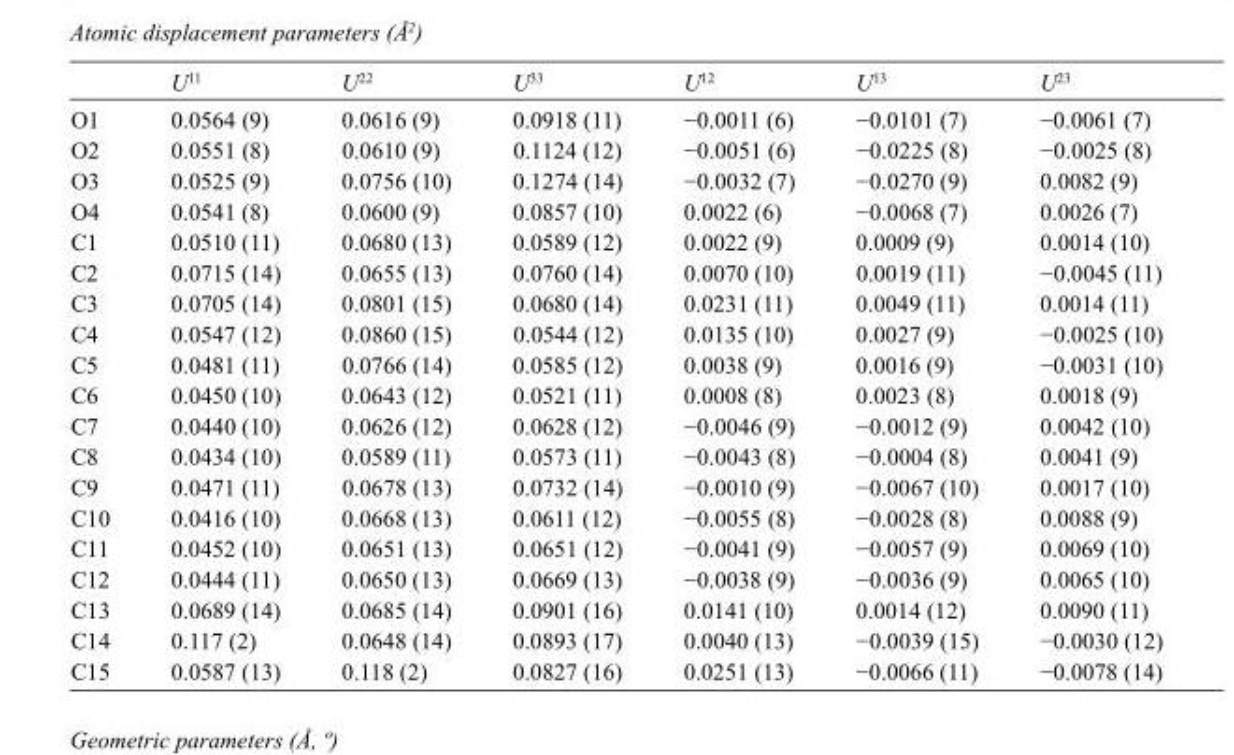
<table><thead><tr><td></td><td>U<sup>11</sup></td><td>U<sup>22</sup></td><td>U<sup>33</sup></td><td>U<sup>12</sup></td><td>U<sup>13</sup></td><td>U<sup>23</sup></td></tr></thead><tbody><tr><td>O1</td><td>0.0564 (9)</td><td>0.0616 (9)</td><td>0.0918 (11)</td><td>−0.0011 (6)</td><td>−0.0101 (7)</td><td>−0.0061 (7)</td></tr><tr><td>O2</td><td>0.0551 (8)</td><td>0.0610 (9)</td><td>0.1124 (12)</td><td>−0.0051 (6)</td><td>−0.0225 (8)</td><td>−0.0025 (8)</td></tr><tr><td>O3</td><td>0.0525 (9)</td><td>0.0756 (10)</td><td>0.1274 (14)</td><td>−0.0032 (7)</td><td>−0.0270 (9)</td><td>0.0082 (9)</td></tr><tr><td>O4</td><td>0.0541 (8)</td><td>0.0600 (9)</td><td>0.0857 (10)</td><td>0.0022 (6)</td><td>−0.0068 (7)</td><td>0.0026 (7)</td></tr><tr><td>C1</td><td>0.0510 (11)</td><td>0.0680 (13)</td><td>0.0589 (12)</td><td>0.0022 (9)</td><td>0.0009 (9)</td><td>0.0014 (10)</td></tr><tr><td>C2</td><td>0.0715 (14)</td><td>0.0655 (13)</td><td>0.0760 (14)</td><td>0.0070 (10)</td><td>0.0019 (11)</td><td>−0.0045 (11)</td></tr><tr><td>C3</td><td>0.0705 (14)</td><td>0.0801 (15)</td><td>0.0680 (14)</td><td>0.0231 (11)</td><td>0.0049 (11)</td><td>0.0014 (11)</td></tr><tr><td>C4</td><td>0.0547 (12)</td><td>0.0860 (15)</td><td>0.0544 (12)</td><td>0.0135 (10)</td><td>0.0027 (9)</td><td>−0.0025 (10)</td></tr><tr><td>C5</td><td>0.0481 (11)</td><td>0.0766 (14)</td><td>0.0585 (12)</td><td>0.0038 (9)</td><td>0.0016 (9)</td><td>−0.0031 (10)</td></tr><tr><td>C6</td><td>0.0450 (10)</td><td>0.0643 (12)</td><td>0.0521 (11)</td><td>0.0008 (8)</td><td>0.0023 (8)</td><td>0.0018 (9)</td></tr><tr><td>C7</td><td>0.0440 (10)</td><td>0.0626 (12)</td><td>0.0628 (12)</td><td>−0.0046 (9)</td><td>−0.0012 (9)</td><td>0.0042 (10)</td></tr><tr><td>C8</td><td>0.0434 (10)</td><td>0.0589 (11)</td><td>0.0573 (11)</td><td>−0.0043 (8)</td><td>−0.0004 (8)</td><td>0.0041 (9)</td></tr><tr><td>C9</td><td>0.0471 (11)</td><td>0.0678 (13)</td><td>0.0732 (14)</td><td>−0.0010 (9)</td><td>−0.0067 (10)</td><td>0.0017 (10)</td></tr><tr><td>C10</td><td>0.0416 (10)</td><td>0.0668 (13)</td><td>0.0611 (12)</td><td>−0.0055 (8)</td><td>−0.0028 (8)</td><td>0.0088 (9)</td></tr><tr><td>C11</td><td>0.0452 (10)</td><td>0.0651 (13)</td><td>0.0651 (12)</td><td>−0.0041 (9)</td><td>−0.0057 (9)</td><td>0.0069 (10)</td></tr><tr><td>C12</td><td>0.0444 (11)</td><td>0.0650 (13)</td><td>0.0669 (13)</td><td>−0.0038 (9)</td><td>−0.0036 (9)</td><td>0.0065 (10)</td></tr><tr><td>C13</td><td>0.0689 (14)</td><td>0.0685 (14)</td><td>0.0901 (16)</td><td>0.0141 (10)</td><td>0.0014 (12)</td><td>0.0090 (11)</td></tr><tr><td>C14</td><td>0.117 (2)</td><td>0.0648 (14)</td><td>0.0893 (17)</td><td>0.0040 (13)</td><td>−0.0039 (15)</td><td>−0.0030 (12)</td></tr><tr><td>C15</td><td>0.0587 (13)</td><td>0.118 (2)</td><td>0.0827 (16)</td><td>0.0251 (13)</td><td>−0.0066 (11)</td><td>−0.0078 (14)</td></tr></tbody></table>